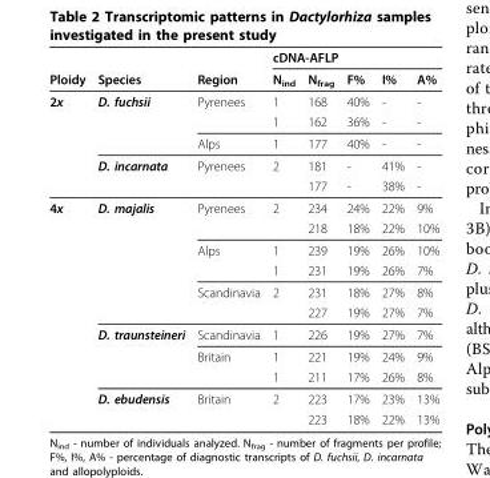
<table><thead><tr><td rowspan="2">Ploidy</td><td rowspan="2">Species</td><td rowspan="2">Region</td><td colspan="5">cDNA-AFLP</td></tr><tr><td>N<sub>ind</sub></td><td>N<sub>frag</sub></td><td>F%</td><td>I%</td><td>A%</td></tr></thead><tbody><tr><td rowspan="5">2x</td><td>D. fuchsii</td><td>Pyrenees</td><td>1</td><td>168</td><td>40%</td><td>-</td><td>-</td></tr><tr><td></td><td></td><td>1</td><td>162</td><td>36%</td><td>-</td><td>-</td></tr><tr><td></td><td>Alps</td><td>1</td><td>177</td><td>40%</td><td>-</td><td>-</td></tr><tr><td>D. incarnata</td><td>Pyrenees</td><td>2</td><td>181</td><td>-</td><td>41%</td><td>-</td></tr><tr><td></td><td></td><td></td><td>177</td><td>-</td><td>38%</td><td>-</td></tr><tr><td rowspan="11">4x</td><td>D. majalis</td><td>Pyrenees</td><td>2</td><td>234</td><td>24%</td><td>22%</td><td>9%</td></tr><tr><td></td><td></td><td></td><td>218</td><td>18%</td><td>22%</td><td>10%</td></tr><tr><td></td><td>Alps</td><td>1</td><td>239</td><td>19%</td><td>26%</td><td>10%</td></tr><tr><td></td><td></td><td>1</td><td>231</td><td>19%</td><td>26%</td><td>7%</td></tr><tr><td></td><td>Scandinavia</td><td>2</td><td>231</td><td>18%</td><td>27%</td><td>8%</td></tr><tr><td></td><td></td><td></td><td>227</td><td>19%</td><td>27%</td><td>7%</td></tr><tr><td>D. traunsteineri</td><td>Scandinavia</td><td>1</td><td>226</td><td>19%</td><td>27%</td><td>7%</td></tr><tr><td></td><td>Britain</td><td>1</td><td>221</td><td>19%</td><td>24%</td><td>9%</td></tr><tr><td></td><td></td><td>1</td><td>211</td><td>17%</td><td>26%</td><td>8%</td></tr><tr><td>D. ebudensis</td><td>Britain</td><td>2</td><td>223</td><td>17%</td><td>23%</td><td>13%</td></tr><tr><td></td><td></td><td></td><td>223</td><td>18%</td><td>22%</td><td>13%</td></tr></tbody></table>